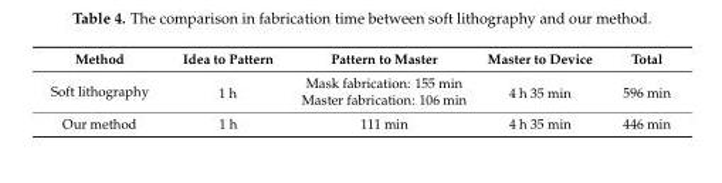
<table><thead><tr><td>Method</td><td>Idea to Pattern</td><td>Pattern to Master</td><td>Master to Device</td><td>Total</td></tr></thead><tbody><tr><td rowspan="2">Soft lithography</td><td rowspan="2">1 h</td><td>Mask fabrication: 155 min</td><td rowspan="2">4 h 35 min</td><td rowspan="2">596 min</td></tr><tr><td>Master fabrication: 106 min</td></tr><tr><td>Our method</td><td>1 h</td><td>111 min</td><td>4 h 35 min</td><td>446 min</td></tr></tbody></table>